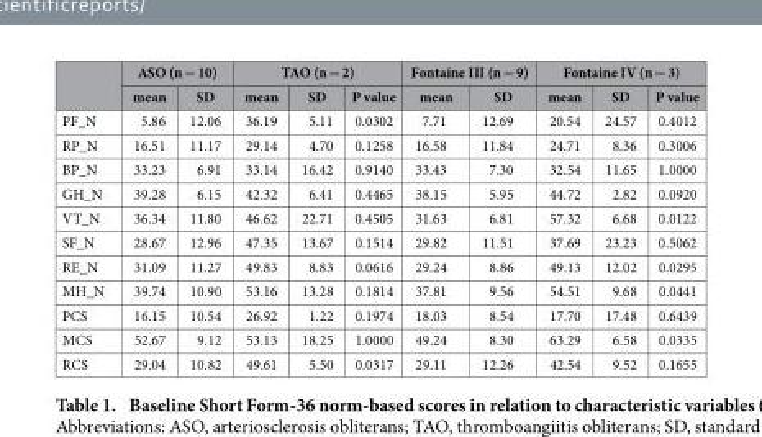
<table><thead><tr><td rowspan="2"></td><td colspan="2">ASO (n = 10)</td><td colspan="3">TAO (n = 2)</td><td colspan="2">Fontaine III (n = 9)</td><td colspan="3">Fontaine IV (n = 3)</td></tr><tr><td>mean</td><td>SD</td><td>mean</td><td>SD</td><td>P value</td><td>mean</td><td>SD</td><td>mean</td><td>SD</td><td>P value</td></tr></thead><tbody><tr><td>PF_N</td><td>5.86</td><td>12.06</td><td>36.19</td><td>5.11</td><td>0.0302</td><td>7.71</td><td>12.69</td><td>20.54</td><td>24.57</td><td>0.4012</td></tr><tr><td>RP_N</td><td>16.51</td><td>11.17</td><td>29.14</td><td>4.70</td><td>0.1258</td><td>16.58</td><td>11.84</td><td>24.71</td><td>8.36</td><td>0.3006</td></tr><tr><td>BP_N</td><td>33.23</td><td>6.91</td><td>33.14</td><td>16.42</td><td>0.9140</td><td>33.43</td><td>7.30</td><td>32.54</td><td>11.65</td><td>1.0000</td></tr><tr><td>GH_N</td><td>39.28</td><td>6.15</td><td>42.32</td><td>6.41</td><td>0.4465</td><td>38.15</td><td>5.95</td><td>44.72</td><td>2.82</td><td>0.0920</td></tr><tr><td>VT_N</td><td>36.34</td><td>11.80</td><td>46.62</td><td>22.71</td><td>0.4505</td><td>31.63</td><td>6.81</td><td>57.32</td><td>6.68</td><td>0.0122</td></tr><tr><td>SF_N</td><td>28.67</td><td>12.96</td><td>47.35</td><td>13.67</td><td>0.1514</td><td>29.82</td><td>11.51</td><td>37.69</td><td>23.23</td><td>0.5062</td></tr><tr><td>RE_N</td><td>31.09</td><td>11.27</td><td>49.83</td><td>8.83</td><td>0.0616</td><td>29.24</td><td>8.86</td><td>49.13</td><td>12.02</td><td>0.0295</td></tr><tr><td>MH_N</td><td>39.74</td><td>10.90</td><td>53.16</td><td>13.28</td><td>0.1814</td><td>37.81</td><td>9.56</td><td>54.51</td><td>9.68</td><td>0.0441</td></tr><tr><td>PCS</td><td>16.15</td><td>10.54</td><td>26.92</td><td>1.22</td><td>0.1974</td><td>18.03</td><td>8.54</td><td>17.70</td><td>17.48</td><td>0.6439</td></tr><tr><td>MCS</td><td>52.67</td><td>9.12</td><td>53.13</td><td>18.25</td><td>1.0000</td><td>49.24</td><td>8.30</td><td>63.29</td><td>6.58</td><td>0.0335</td></tr><tr><td>RCS</td><td>29.04</td><td>10.82</td><td>49.61</td><td>5.50</td><td>0.0317</td><td>29.11</td><td>12.26</td><td>42.54</td><td>9.52</td><td>0.1655</td></tr></tbody></table>